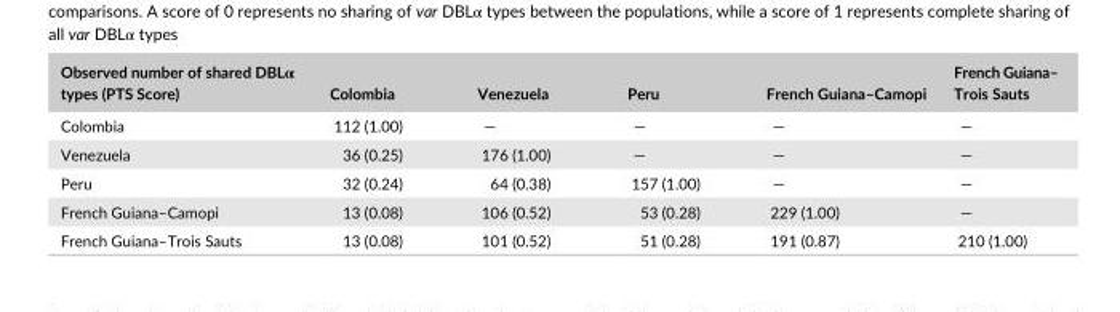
<table><thead><tr><td>Observed number of shared DBLα types (PTS Score)</td><td>Colombia</td><td>Venezuela</td><td>Peru</td><td>French Guiana–Camopi</td><td>French Guiana– Trois Sauts</td></tr></thead><tbody><tr><td>Colombia</td><td>112 (1.00)</td><td>—</td><td>—</td><td>—</td><td>—</td></tr><tr><td>Venezuela</td><td>36 (0.25)</td><td>176 (1.00)</td><td>—</td><td>—</td><td>—</td></tr><tr><td>Peru</td><td>32 (0.24)</td><td>64 (0.38)</td><td>157 (1.00)</td><td>—</td><td>—</td></tr><tr><td>French Guiana–Camopi</td><td>13 (0.08)</td><td>106 (0.52)</td><td>53 (0.28)</td><td>229 (1.00)</td><td>—</td></tr><tr><td>French Guiana–Trois Sauts</td><td>13 (0.08)</td><td>101 (0.52)</td><td>51 (0.28)</td><td>191 (0.87)</td><td>210 (1.00)</td></tr></tbody></table>